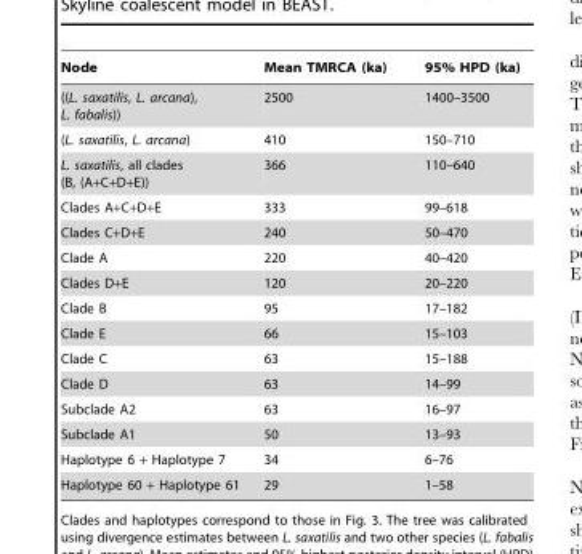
<table><thead><tr><td>Node</td><td>Mean TMRCA (ka)</td><td>95% HPD (ka)</td></tr></thead><tbody><tr><td>((L. saxatilis, L. arcana), L. fabalis))</td><td>2500</td><td>1400–3500</td></tr><tr><td>(L. saxatilis, L. arcana)</td><td>410</td><td>150–710</td></tr><tr><td>L. saxatilis, all clades (B, (A+C+D+E))</td><td>366</td><td>110–640</td></tr><tr><td>Clades A+C+D+E</td><td>333</td><td>99–618</td></tr><tr><td>Clades C+D+E</td><td>240</td><td>50–470</td></tr><tr><td>Clade A</td><td>220</td><td>40–420</td></tr><tr><td>Clades D+E</td><td>120</td><td>20–220</td></tr><tr><td>Clade B</td><td>95</td><td>17–182</td></tr><tr><td>Clade E</td><td>66</td><td>15–103</td></tr><tr><td>Clade C</td><td>63</td><td>15–188</td></tr><tr><td>Clade D</td><td>63</td><td>14–99</td></tr><tr><td>Subclade A2</td><td>63</td><td>16–97</td></tr><tr><td>Subclade A1</td><td>50</td><td>13–93</td></tr><tr><td>Haplotype 6 + Haplotype 7</td><td>34</td><td>6–76</td></tr><tr><td>Haplotype 60 + Haplotype 61</td><td>29</td><td>1–58</td></tr></tbody></table>